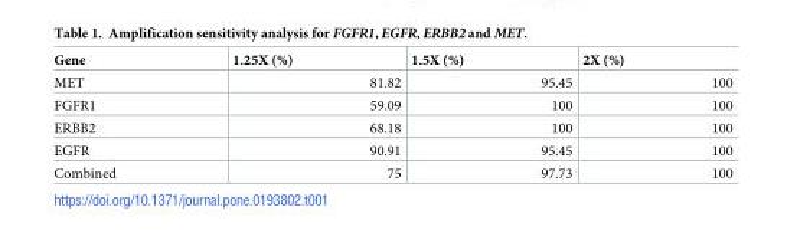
<table><thead><tr><td>Gene</td><td>1.25X (%)</td><td>1.5X (%)</td><td>2X (%)</td></tr></thead><tbody><tr><td>MET</td><td>81.82</td><td>95.45</td><td>100</td></tr><tr><td>FGFR1</td><td>59.09</td><td>100</td><td>100</td></tr><tr><td>ERBB2</td><td>68.18</td><td>100</td><td>100</td></tr><tr><td>EGFR</td><td>90.91</td><td>95.45</td><td>100</td></tr><tr><td>Combined</td><td>75</td><td>97.73</td><td>100</td></tr></tbody></table>